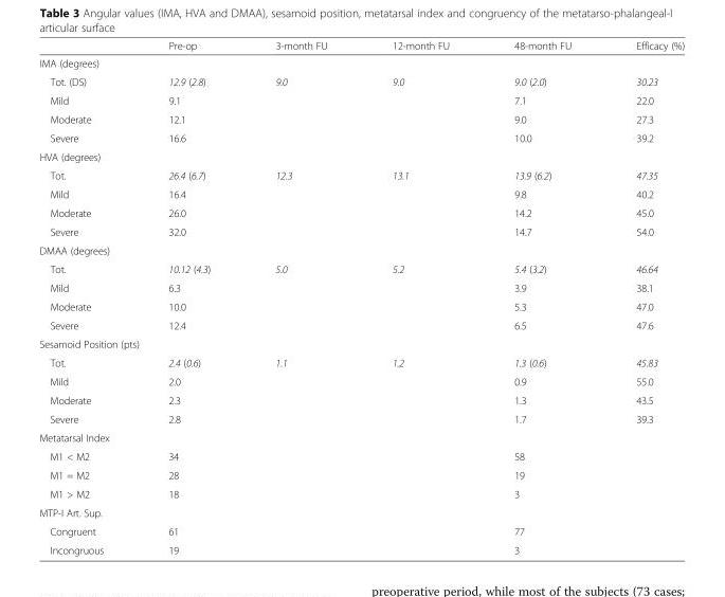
<table><thead><tr><td></td><td>Pre-op</td><td>3-month FU</td><td>12-month FU</td><td>48-month FU</td><td>Efficacy (%)</td></tr></thead><tbody><tr><td colspan="6">IMA (degrees)</td></tr><tr><td>Tot. (DS)</td><td>12.9 (2.8)</td><td>9.0</td><td>9.0</td><td>9.0 (2.0)</td><td>30.23</td></tr><tr><td>Mild</td><td>9.1</td><td></td><td></td><td>7.1</td><td>22.0</td></tr><tr><td>Moderate</td><td>12.1</td><td></td><td></td><td>9.0</td><td>27.3</td></tr><tr><td>Severe</td><td>16.6</td><td></td><td></td><td>10.0</td><td>39.2</td></tr><tr><td colspan="6">HVA (degrees)</td></tr><tr><td>Tot.</td><td>26.4 (6.7)</td><td>12.3</td><td>13.1</td><td>13.9 (6.2)</td><td>47.35</td></tr><tr><td>Mild</td><td>16.4</td><td></td><td></td><td>9.8</td><td>40.2</td></tr><tr><td>Moderate</td><td>26.0</td><td></td><td></td><td>14.2</td><td>45.0</td></tr><tr><td>Severe</td><td>32.0</td><td></td><td></td><td>14.7</td><td>54.0</td></tr><tr><td colspan="6">DMAA (degrees)</td></tr><tr><td>Tot.</td><td>10.12 (4.3)</td><td>5.0</td><td>5.2</td><td>5.4 (3.2)</td><td>46.64</td></tr><tr><td>Mild</td><td>6.3</td><td></td><td></td><td>3.9</td><td>38.1</td></tr><tr><td>Moderate</td><td>10.0</td><td></td><td></td><td>5.3</td><td>47.0</td></tr><tr><td>Severe</td><td>12.4</td><td></td><td></td><td>6.5</td><td>47.6</td></tr><tr><td colspan="6">Sesamoid Position (pts)</td></tr><tr><td>Tot.</td><td>2.4 (0.6)</td><td>1.1</td><td>1.2</td><td>1.3 (0.6)</td><td>45.83</td></tr><tr><td>Mild</td><td>2.0</td><td></td><td></td><td>0.9</td><td>55.0</td></tr><tr><td>Moderate</td><td>2.3</td><td></td><td></td><td>1.3</td><td>43.5</td></tr><tr><td>Severe</td><td>2.8</td><td></td><td></td><td>1.7</td><td>39.3</td></tr><tr><td colspan="6">Metatarsal Index</td></tr><tr><td>M1 &lt; M2</td><td>34</td><td></td><td></td><td>58</td><td></td></tr><tr><td>M1 = M2</td><td>28</td><td></td><td></td><td>19</td><td></td></tr><tr><td>M1 &gt; M2</td><td>18</td><td></td><td></td><td>3</td><td></td></tr><tr><td colspan="6">MTP-I Art. Sup.</td></tr><tr><td>Congruent</td><td>61</td><td></td><td></td><td>77</td><td></td></tr><tr><td>Incongruous</td><td>19</td><td></td><td></td><td>3</td><td></td></tr></tbody></table>